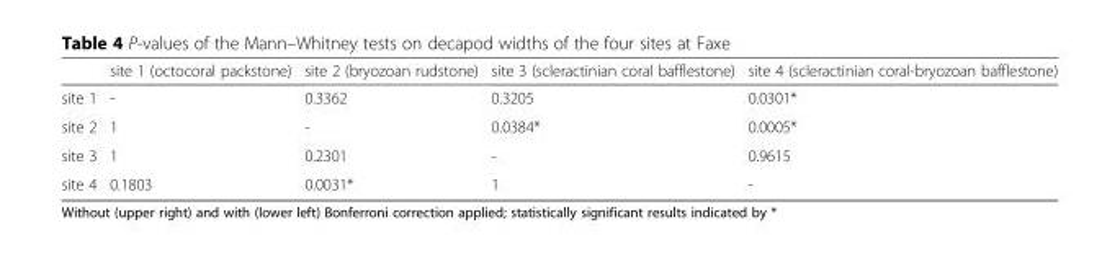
<table><thead><tr><td></td><td>site 1 (octocoral packstone)</td><td>site 2 (bryozoan rudstone)</td><td>site 3 (scleractinian coral bafflestone)</td><td>site 4 (scleractinian coral-bryozoan bafflestone)</td></tr></thead><tbody><tr><td>site 1</td><td>-</td><td>0.3362</td><td>0.3205</td><td>0.0301*</td></tr><tr><td>site 2</td><td>1</td><td>-</td><td>0.0384*</td><td>0.0005*</td></tr><tr><td>site 3</td><td>1</td><td>0.2301</td><td>-</td><td>0.9615</td></tr><tr><td>site 4</td><td>0.1803</td><td>0.0031*</td><td>1</td><td>-</td></tr></tbody></table>